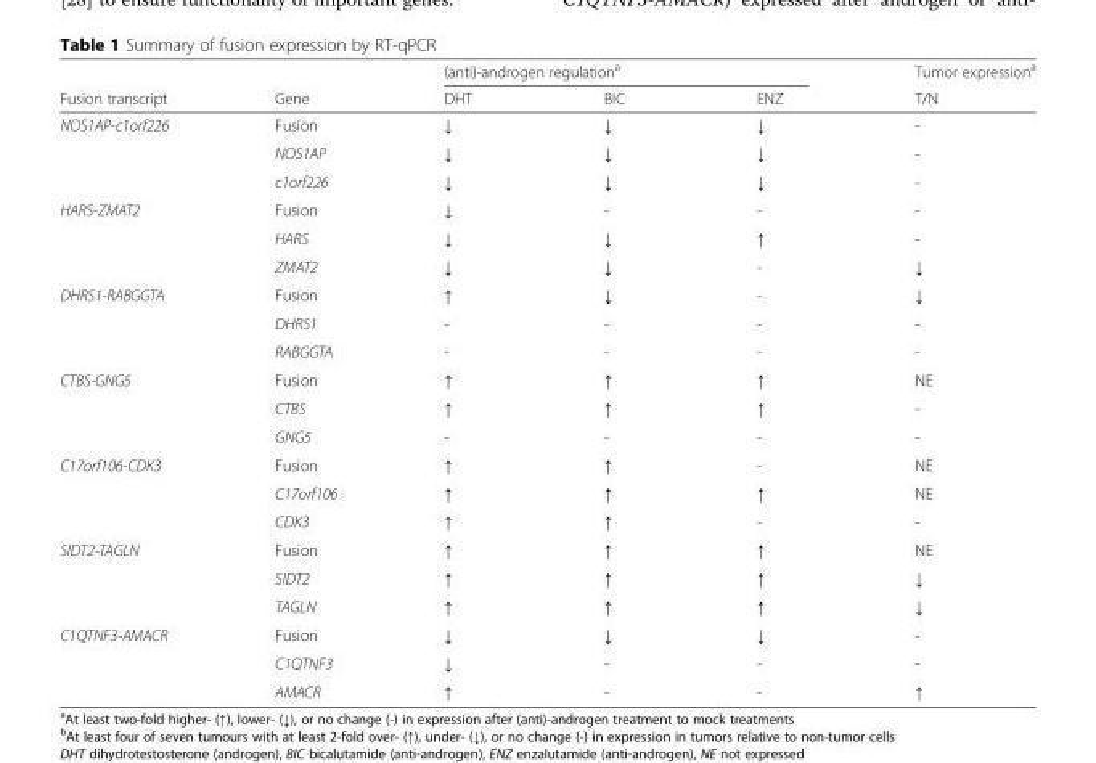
<table><thead><tr><td rowspan="2">Fusion transcript</td><td rowspan="2">Gene</td><td colspan="3">(anti)-androgen regulation<sup>a</sup></td><td rowspan="2">Tumor expression<sup>a</sup> T/N</td></tr><tr><td>DHT</td><td>BIC</td><td>ENZ</td></tr></thead><tbody><tr><td rowspan="3">NOS1AP-c1orf226</td><td>Fusion</td><td>↓</td><td>↓</td><td>↓</td><td>-</td></tr><tr><td>NOS1AP</td><td>↓</td><td>↓</td><td>↓</td><td>-</td></tr><tr><td>c1orf226</td><td>↓</td><td>↓</td><td>↓</td><td>-</td></tr><tr><td rowspan="3">HARS-ZMAT2</td><td>Fusion</td><td>↓</td><td>-</td><td>-</td><td>-</td></tr><tr><td>HARS</td><td>↓</td><td>↓</td><td>↑</td><td>-</td></tr><tr><td>ZMAT2</td><td>↓</td><td>↓</td><td>-</td><td>↓</td></tr><tr><td rowspan="3">DHRS1-RABGGTA</td><td>Fusion</td><td>↑</td><td>↓</td><td>-</td><td>↓</td></tr><tr><td>DHRS1</td><td>-</td><td>-</td><td>-</td><td>-</td></tr><tr><td>RABGGTA</td><td>-</td><td>-</td><td>-</td><td>-</td></tr><tr><td rowspan="3">CTBS-GNG5</td><td>Fusion</td><td>↑</td><td>↑</td><td>↑</td><td>NE</td></tr><tr><td>CTBS</td><td>↑</td><td>↑</td><td>↑</td><td>-</td></tr><tr><td>GNG5</td><td>-</td><td>-</td><td>-</td><td>-</td></tr><tr><td rowspan="3">C17orf106-CDK3</td><td>Fusion</td><td>↑</td><td>↑</td><td>-</td><td>NE</td></tr><tr><td>C17orf106</td><td>↑</td><td>↑</td><td>↑</td><td>NE</td></tr><tr><td>CDK3</td><td>↑</td><td>↑</td><td>-</td><td>-</td></tr><tr><td rowspan="3">SIDT2-TAGLN</td><td>Fusion</td><td>↑</td><td>↑</td><td>↑</td><td>NE</td></tr><tr><td>SIDT2</td><td>↑</td><td>↑</td><td>↑</td><td>↓</td></tr><tr><td>TAGLN</td><td>↑</td><td>↑</td><td>↑</td><td>↓</td></tr><tr><td rowspan="3">C1QTNF3-AMACR</td><td>Fusion</td><td>↓</td><td>↓</td><td>↓</td><td>-</td></tr><tr><td>C1QTNF3</td><td>↓</td><td>-</td><td>-</td><td>-</td></tr><tr><td>AMACR</td><td>↑</td><td>-</td><td>-</td><td>↑</td></tr></tbody></table>